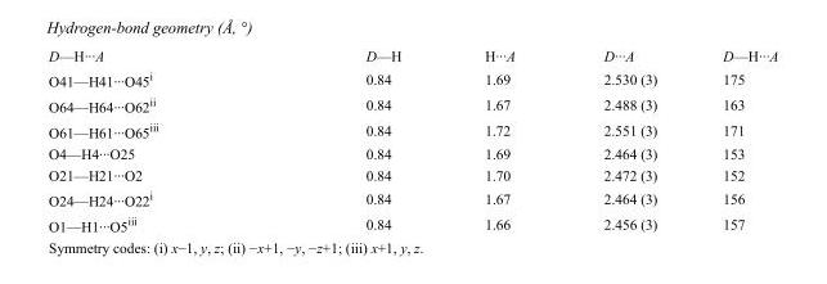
<table><tbody><tr><td>D—H···A</td><td>D—H</td><td>H···A</td><td>D···A</td><td>D—H···A</td></tr><tr><td>O41—H41···O45<sup>i</sup></td><td>0.84</td><td>1.69</td><td>2.530 (3)</td><td>175</td></tr><tr><td>O64—H64···O62<sup>ii</sup></td><td>0.84</td><td>1.67</td><td>2.488 (3)</td><td>163</td></tr><tr><td>O61—H61···O65<sup>iii</sup></td><td>0.84</td><td>1.72</td><td>2.551 (3)</td><td>171</td></tr><tr><td>O4—H4···O25</td><td>0.84</td><td>1.69</td><td>2.464 (3)</td><td>153</td></tr><tr><td>O21—H21···O2</td><td>0.84</td><td>1.70</td><td>2.472 (3)</td><td>152</td></tr><tr><td>O24—H24···O22<sup>i</sup></td><td>0.84</td><td>1.67</td><td>2.464 (3)</td><td>156</td></tr><tr><td>O1—H1···O5<sup>iii</sup></td><td>0.84</td><td>1.66</td><td>2.456 (3)</td><td>157</td></tr></tbody></table>